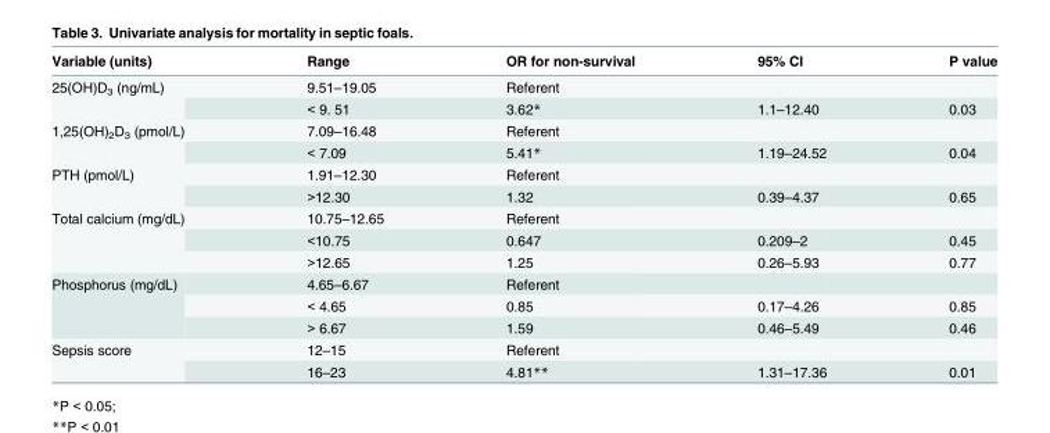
<table><thead><tr><td>Variable (units)</td><td>Range</td><td>OR for non-survival</td><td>95% CI</td><td>P value</td></tr></thead><tbody><tr><td rowspan="2">25(OH)D<sub>3</sub> (ng/mL)</td><td>9.51–19.05</td><td>Referent</td><td></td><td></td></tr><tr><td>&lt; 9. 51</td><td>3.62*</td><td>1.1–12.40</td><td>0.03</td></tr><tr><td rowspan="2">1,25(OH)<sub>2</sub>D<sub>3</sub> (pmol/L)</td><td>7.09–16.48</td><td>Referent</td><td></td><td></td></tr><tr><td>&lt; 7.09</td><td>5.41*</td><td>1.19–24.52</td><td>0.04</td></tr><tr><td rowspan="2">PTH (pmol/L)</td><td>1.91–12.30</td><td>Referent</td><td></td><td></td></tr><tr><td>&gt;12.30</td><td>1.32</td><td>0.39–4.37</td><td>0.65</td></tr><tr><td rowspan="3">Total calcium (mg/dL)</td><td>10.75–12.65</td><td>Referent</td><td></td><td></td></tr><tr><td>&lt;10.75</td><td>0.647</td><td>0.209–2</td><td>0.45</td></tr><tr><td>&gt;12.65</td><td>1.25</td><td>0.26–5.93</td><td>0.77</td></tr><tr><td rowspan="3">Phosphorus (mg/dL)</td><td>4.65–6.67</td><td>Referent</td><td></td><td></td></tr><tr><td>&lt; 4.65</td><td>0.85</td><td>0.17–4.26</td><td>0.85</td></tr><tr><td>&gt; 6.67</td><td>1.59</td><td>0.46–5.49</td><td>0.46</td></tr><tr><td rowspan="2">Sepsis score</td><td>12–15</td><td>Referent</td><td></td><td></td></tr><tr><td>16–23</td><td>4.81**</td><td>1.31–17.36</td><td>0.01</td></tr></tbody></table>